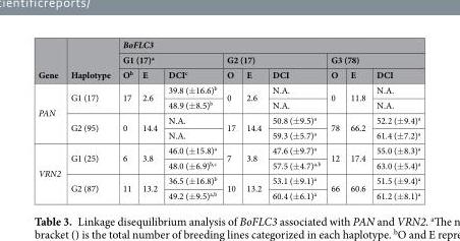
<table><thead><tr><td rowspan="3">Gene</td><td rowspan="3">Haplotype</td><td colspan="9">BoFLC3</td></tr><tr><td colspan="3">G1 (17)<sup>a</sup></td><td colspan="3">G2 (17)</td><td colspan="3">G3 (78)</td></tr><tr><td>O<sup>b</sup></td><td>E</td><td>DCI<sup>c</sup></td><td>O</td><td>E</td><td>DCI</td><td>O</td><td>E</td><td>DCI</td></tr></thead><tbody><tr><td rowspan="4">PAN</td><td rowspan="2">G1 (17)</td><td rowspan="2">17</td><td rowspan="2">2.6</td><td>39.8 (±16.6)<sup>b</sup></td><td rowspan="2">0</td><td rowspan="2">2.6</td><td>N.A.</td><td rowspan="2">0</td><td rowspan="2">11.8</td><td>N.A.</td></tr><tr><td>48.9 (±8.5)<sup>b</sup></td><td>N.A.</td><td>N.A.</td></tr><tr><td rowspan="2">G2 (95)</td><td rowspan="2">0</td><td rowspan="2">14.4</td><td>N.A.</td><td rowspan="2">17</td><td rowspan="2">14.4</td><td>50.8 (±9.5)<sup>a</sup></td><td rowspan="2">78</td><td rowspan="2">66.2</td><td>52.2 (±9.4)<sup>a</sup></td></tr><tr><td>N.A.</td><td>59.3 (±5.7)<sup>a</sup></td><td>61.4 (±7.2)<sup>a</sup></td></tr><tr><td rowspan="4">VRN2</td><td rowspan="2">G1 (25)</td><td rowspan="2">6</td><td rowspan="2">3.8</td><td>46.0 (±15.8)<sup>a</sup></td><td rowspan="2">7</td><td rowspan="2">3.8</td><td>47.6 (±9.7)<sup>a</sup></td><td rowspan="2">12</td><td rowspan="2">17.4</td><td>55.0 (±8.3)<sup>a</sup></td></tr><tr><td>48.0 (±6.9)<sup>b,c</sup></td><td>57.5 (±4.7)<sup>a,b</sup></td><td>63.0 (±5.4)<sup>a</sup></td></tr><tr><td rowspan="2">G2 (87)</td><td rowspan="2">11</td><td rowspan="2">13.2</td><td>36.5 (±16.8)<sup>b</sup></td><td rowspan="2">10</td><td rowspan="2">13.2</td><td>53.1 (±9.1)<sup>a</sup></td><td rowspan="2">66</td><td rowspan="2">60.6</td><td>51.5 (±9.4)<sup>a</sup></td></tr><tr><td>49.2 (±9.5)<sup>a,b</sup></td><td>60.4 (±6.1)<sup>a</sup></td><td>61.2 (±8.1)<sup>a</sup></td></tr></tbody></table>